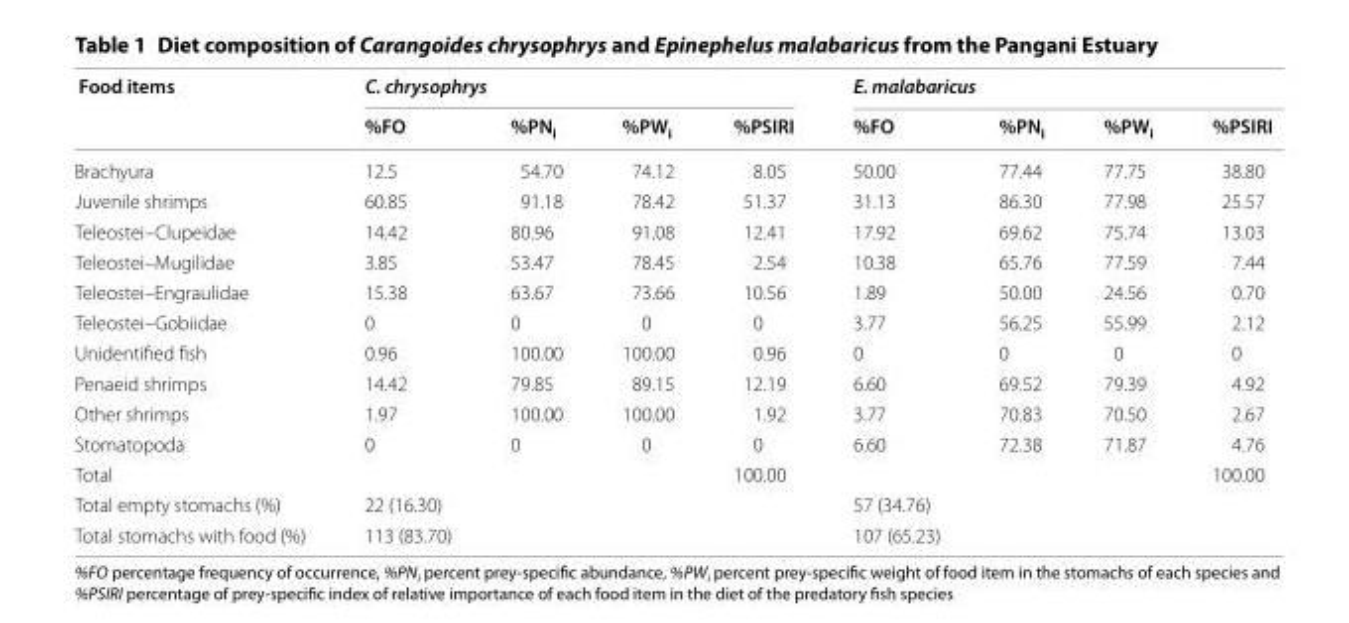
<table><thead><tr><td rowspan="2">Food items</td><td colspan="4">C. chrysophrys</td><td colspan="4">E. malabaricus</td></tr><tr><td>%FO</td><td>%PN<sub>i</sub></td><td>%PW<sub>i</sub></td><td>%PSIRI</td><td>%FO</td><td>%PN<sub>i</sub></td><td>%PW<sub>i</sub></td><td>%PSIRI</td></tr></thead><tbody><tr><td>Brachyura</td><td>12.5</td><td>54.70</td><td>74.12</td><td>8.05</td><td>50.00</td><td>77.44</td><td>77.75</td><td>38.80</td></tr><tr><td>Juvenile shrimps</td><td>60.85</td><td>91.18</td><td>78.42</td><td>51.37</td><td>31.13</td><td>86.30</td><td>77.98</td><td>25.57</td></tr><tr><td>Teleostei–Clupeidae</td><td>14.42</td><td>80.96</td><td>91.08</td><td>12.41</td><td>17.92</td><td>69.62</td><td>75.74</td><td>13.03</td></tr><tr><td>Teleostei–Mugilidae</td><td>3.85</td><td>53.47</td><td>78.45</td><td>2.54</td><td>10.38</td><td>65.76</td><td>77.59</td><td>7.44</td></tr><tr><td>Teleostei–Engraulidae</td><td>15.38</td><td>63.67</td><td>73.66</td><td>10.56</td><td>1.89</td><td>50.00</td><td>24.56</td><td>0.70</td></tr><tr><td>Teleostei–Gobiidae</td><td>0</td><td>0</td><td>0</td><td>0</td><td>3.77</td><td>56.25</td><td>55.99</td><td>2.12</td></tr><tr><td>Unidentified fish</td><td>0.96</td><td>100.00</td><td>100.00</td><td>0.96</td><td>0</td><td>0</td><td>0</td><td>0</td></tr><tr><td>Penaeid shrimps</td><td>14.42</td><td>79.85</td><td>89.15</td><td>12.19</td><td>6.60</td><td>69.52</td><td>79.39</td><td>4.92</td></tr><tr><td>Other shrimps</td><td>1.97</td><td>100.00</td><td>100.00</td><td>1.92</td><td>3.77</td><td>70.83</td><td>70.50</td><td>2.67</td></tr><tr><td>Stomatopoda</td><td>0</td><td>0</td><td>0</td><td>0</td><td>6.60</td><td>72.38</td><td>71.87</td><td>4.76</td></tr><tr><td>Total</td><td></td><td></td><td></td><td>100.00</td><td></td><td></td><td></td><td>100.00</td></tr><tr><td>Total empty stomachs (%)</td><td colspan="2">22 (16.30)</td><td></td><td></td><td colspan="2">57 (34.76)</td><td></td><td></td></tr><tr><td>Total stomachs with food (%)</td><td colspan="2">113 (83.70)</td><td></td><td></td><td colspan="2">107 (65.23)</td><td></td><td></td></tr></tbody></table>